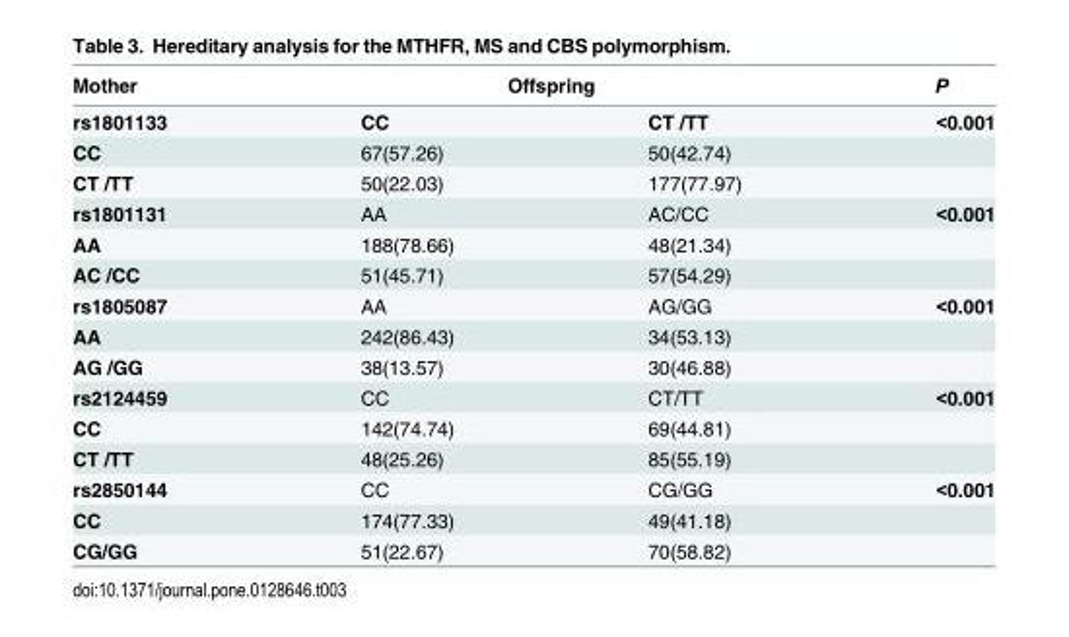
<table><thead><tr><td rowspan="2">Mother rs1801133</td><td colspan="2">Offspring</td><td rowspan="2">P &lt;0.001</td></tr><tr><td>CC</td><td>CT /TT</td></tr></thead><tbody><tr><td>CC</td><td>67(57.26)</td><td>50(42.74)</td><td></td></tr><tr><td>CT /TT</td><td>50(22.03)</td><td>177(77.97)</td><td></td></tr><tr><td>rs1801131</td><td>AA</td><td>AC/CC</td><td>&lt;0.001</td></tr><tr><td>AA</td><td>188(78.66)</td><td>48(21.34)</td><td></td></tr><tr><td>AC /CC</td><td>51(45.71)</td><td>57(54.29)</td><td></td></tr><tr><td>rs1805087</td><td>AA</td><td>AG/GG</td><td>&lt;0.001</td></tr><tr><td>AA</td><td>242(86.43)</td><td>34(53.13)</td><td></td></tr><tr><td>AG /GG</td><td>38(13.57)</td><td>30(46.88)</td><td></td></tr><tr><td>rs2124459</td><td>CC</td><td>CT/TT</td><td>&lt;0.001</td></tr><tr><td>CC</td><td>142(74.74)</td><td>69(44.81)</td><td></td></tr><tr><td>CT /TT</td><td>48(25.26)</td><td>85(55.19)</td><td></td></tr><tr><td>rs2850144</td><td>CC</td><td>CG/GG</td><td>&lt;0.001</td></tr><tr><td>CC</td><td>174(77.33)</td><td>49(41.18)</td><td></td></tr><tr><td>CG/GG</td><td>51(22.67)</td><td>70(58.82)</td><td></td></tr></tbody></table>